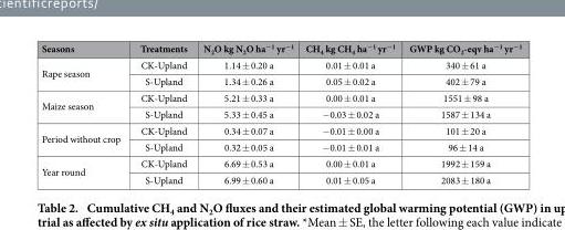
<table><thead><tr><td>Seasons</td><td>Treatments</td><td>N<sub>2</sub>O kg N<sub>2</sub>O ha<sup>−1</sup> yr<sup>−1</sup></td><td>CH<sub>4</sub> kg CH<sub>4</sub> ha<sup>−1</sup> yr<sup>−1</sup></td><td>GWP kg CO<sub>2</sub>-eqv ha<sup>−1</sup> yr<sup>−1</sup></td></tr></thead><tbody><tr><td rowspan="2">Rape season</td><td>CK-Upland</td><td>1.14 ± 0.20 a</td><td>0.01 ± 0.01 a</td><td>340 ± 61 a</td></tr><tr><td>S-Upland</td><td>1.34 ± 0.26 a</td><td>0.05 ± 0.02 a</td><td>402 ± 79 a</td></tr><tr><td rowspan="2">Maize season</td><td>CK-Upland</td><td>5.21 ± 0.33 a</td><td>0.00 ± 0.01 a</td><td>1551 ± 98 a</td></tr><tr><td>S-Upland</td><td>5.33 ± 0.45 a</td><td>− 0.03 ± 0.02 a</td><td>1587 ± 134 a</td></tr><tr><td rowspan="2">Period without crop</td><td>CK-Upland</td><td>0.34 ± 0.07 a</td><td>− 0.01 ± 0.00 a</td><td>101 ± 20 a</td></tr><tr><td>S-Upland</td><td>0.32 ± 0.05 a</td><td>− 0.01 ± 0.01 a</td><td>96 ± 14 a</td></tr><tr><td rowspan="2">Year round</td><td>CK-Upland</td><td>6.69 ± 0.53 a</td><td>0.00 ± 0.01 a</td><td>1992 ± 159 a</td></tr><tr><td>S-Upland</td><td>6.99 ± 0.60 a</td><td>0.01 ± 0.05 a</td><td>2083 ± 180 a</td></tr></tbody></table>